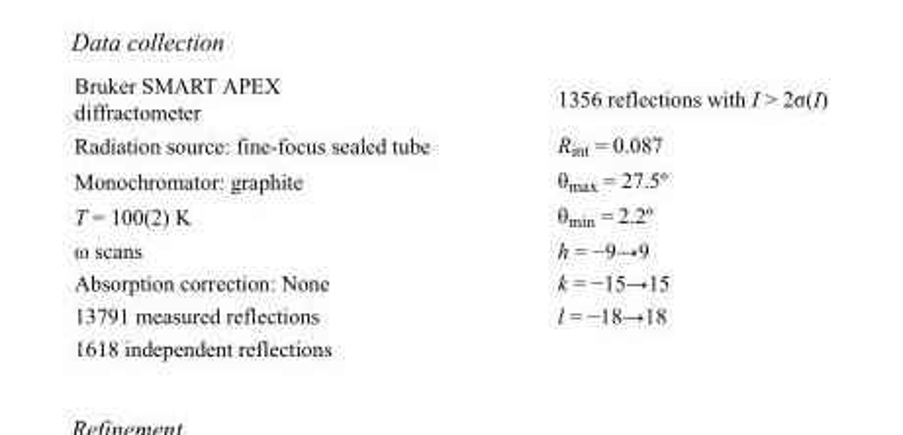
<table><tbody><tr><td>Bruker SMART APEX diffractometer</td><td>1356 reflections with I &gt; 2σ(I)</td></tr><tr><td>Radiation source: fine-focus sealed tube</td><td>R<sub>int</sub> = 0.087</td></tr><tr><td>Monochromator: graphite</td><td>θ<sub>max</sub> = 27.5º</td></tr><tr><td>T = 100(2) K</td><td>θ<sub>min</sub> = 2.2º</td></tr><tr><td>ω scans</td><td>h = −9→9</td></tr><tr><td>Absorption correction: None</td><td>k = −15→15</td></tr><tr><td>13791 measured reflections</td><td>l = −18→18</td></tr><tr><td>1618 independent reflections</td><td></td></tr></tbody></table>